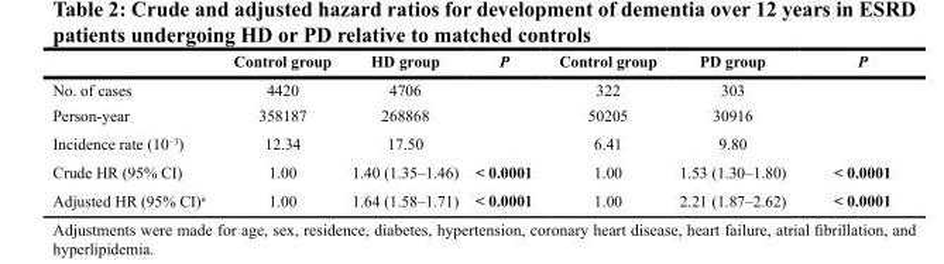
<table><thead><tr><td></td><td>Control group</td><td>HD group</td><td>P</td><td>Control group</td><td>PD group</td><td>P</td></tr></thead><tbody><tr><td>No. of cases</td><td>4420</td><td>4706</td><td></td><td>322</td><td>303</td><td></td></tr><tr><td>Person-year</td><td>358187</td><td>268868</td><td></td><td>50205</td><td>30916</td><td></td></tr><tr><td>Incidence rate (10<sup>−3</sup>)</td><td>12.34</td><td>17.50</td><td></td><td>6.41</td><td>9.80</td><td></td></tr><tr><td>Crude HR (95% CI)</td><td>1.00</td><td>1.40 (1.35–1.46)</td><td>&lt; 0.0001</td><td>1.00</td><td>1.53 (1.30–1.80)</td><td>&lt; 0.0001</td></tr><tr><td>Adjusted HR (95% CI)<sup>a</sup></td><td>1.00</td><td>1.64 (1.58–1.71)</td><td>&lt; 0.0001</td><td>1.00</td><td>2.21 (1.87–2.62)</td><td>&lt; 0.0001</td></tr></tbody></table>